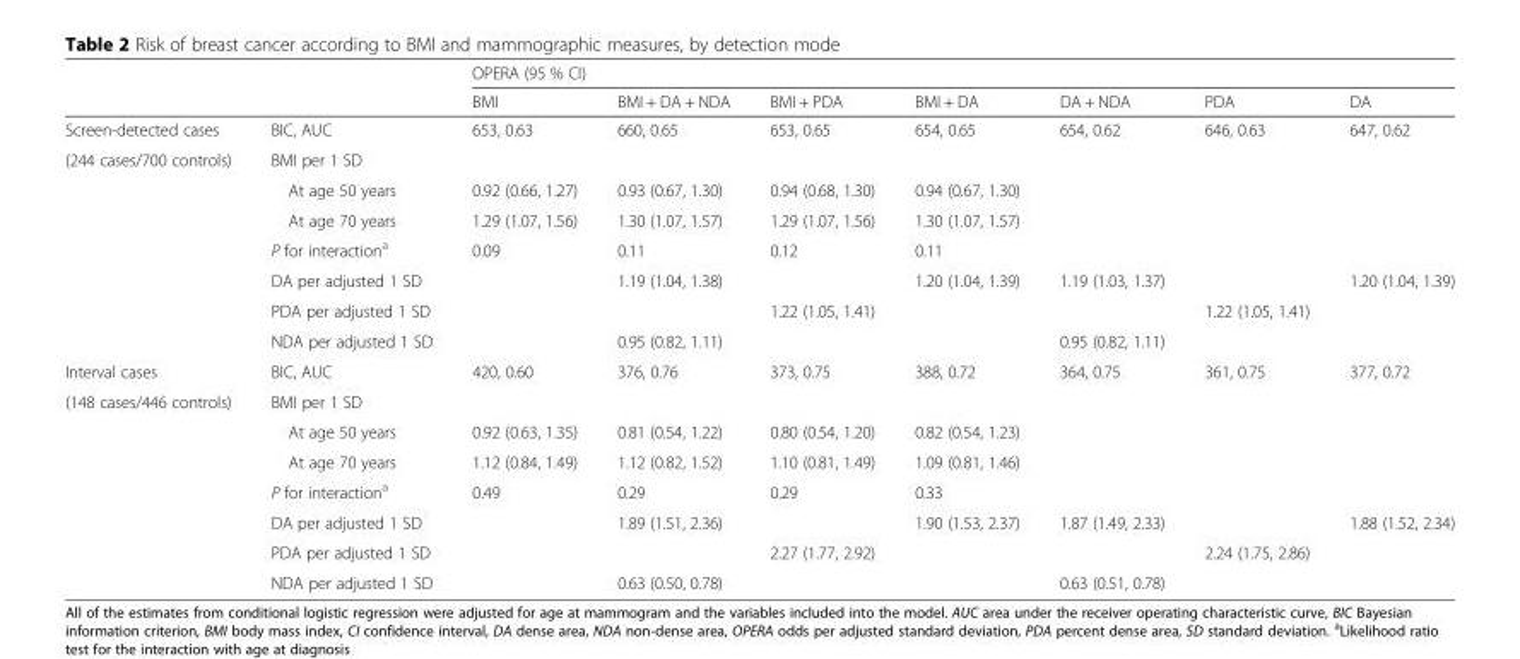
<table><thead><tr><td rowspan="2"></td><td rowspan="2"></td><td colspan="7">OPERA (95 % CI)</td></tr><tr><td>BMI</td><td>BMI + DA + NDA</td><td>BMI + PDA</td><td>BMI + DA</td><td>DA + NDA</td><td>PDA</td><td>DA</td></tr></thead><tbody><tr><td>Screen-detected cases</td><td>BIC, AUC</td><td>653, 0.63</td><td>660, 0.65</td><td>653, 0.65</td><td>654, 0.65</td><td>654, 0.62</td><td>646, 0.63</td><td>647, 0.62</td></tr><tr><td rowspan="7">(244 cases/700 controls)</td><td>BMI per 1 SD</td><td></td><td></td><td></td><td></td><td></td><td></td><td></td></tr><tr><td>At age 50 years</td><td>0.92 (0.66, 1.27)</td><td>0.93 (0.67, 1.30)</td><td>0.94 (0.68, 1.30)</td><td>0.94 (0.67, 1.30)</td><td></td><td></td><td></td></tr><tr><td>At age 70 years</td><td>1.29 (1.07, 1.56)</td><td>1.30 (1.07, 1.57)</td><td>1.29 (1.07, 1.56)</td><td>1.30 (1.07, 1.57)</td><td></td><td></td><td></td></tr><tr><td>P for interaction<sup>a</sup></td><td>0.09</td><td>0.11</td><td>0.12</td><td>0.11</td><td></td><td></td><td></td></tr><tr><td>DA per adjusted 1 SD</td><td></td><td>1.19 (1.04, 1.38)</td><td></td><td>1.20 (1.04, 1.39)</td><td>1.19 (1.03, 1.37)</td><td></td><td>1.20 (1.04, 1.39)</td></tr><tr><td>PDA per adjusted 1 SD</td><td></td><td></td><td>1.22 (1.05, 1.41)</td><td></td><td></td><td>1.22 (1.05, 1.41)</td><td></td></tr><tr><td>NDA per adjusted 1 SD</td><td></td><td>0.95 (0.82, 1.11)</td><td></td><td></td><td>0.95 (0.82, 1.11)</td><td></td><td></td></tr><tr><td>Interval cases</td><td>BIC, AUC</td><td>420, 0.60</td><td>376, 0.76</td><td>373, 0.75</td><td>388, 0.72</td><td>364, 0.75</td><td>361, 0.75</td><td>377, 0.72</td></tr><tr><td rowspan="7">(148 cases/446 controls)</td><td>BMI per 1 SD</td><td></td><td></td><td></td><td></td><td></td><td></td><td></td></tr><tr><td>At age 50 years</td><td>0.92 (0.63, 1.35)</td><td>0.81 (0.54, 1.22)</td><td>0.80 (0.54, 1.20)</td><td>0.82 (0.54, 1.23)</td><td></td><td></td><td></td></tr><tr><td>At age 70 years</td><td>1.12 (0.84, 1.49)</td><td>1.12 (0.82, 1.52)</td><td>1.10 (0.81, 1.49)</td><td>1.09 (0.81, 1.46)</td><td></td><td></td><td></td></tr><tr><td>P for interaction<sup>a</sup></td><td>0.49</td><td>0.29</td><td>0.29</td><td>0.33</td><td></td><td></td><td></td></tr><tr><td>DA per adjusted 1 SD</td><td></td><td>1.89 (1.51, 2.36)</td><td></td><td>1.90 (1.53, 2.37)</td><td>1.87 (1.49, 2.33)</td><td></td><td>1.88 (1.52, 2.34)</td></tr><tr><td>PDA per adjusted 1 SD</td><td></td><td></td><td>2.27 (1.77, 2.92)</td><td></td><td></td><td>2.24 (1.75, 2.86)</td><td></td></tr><tr><td>NDA per adjusted 1 SD</td><td></td><td>0.63 (0.50, 0.78)</td><td></td><td></td><td>0.63 (0.51, 0.78)</td><td></td><td></td></tr></tbody></table>